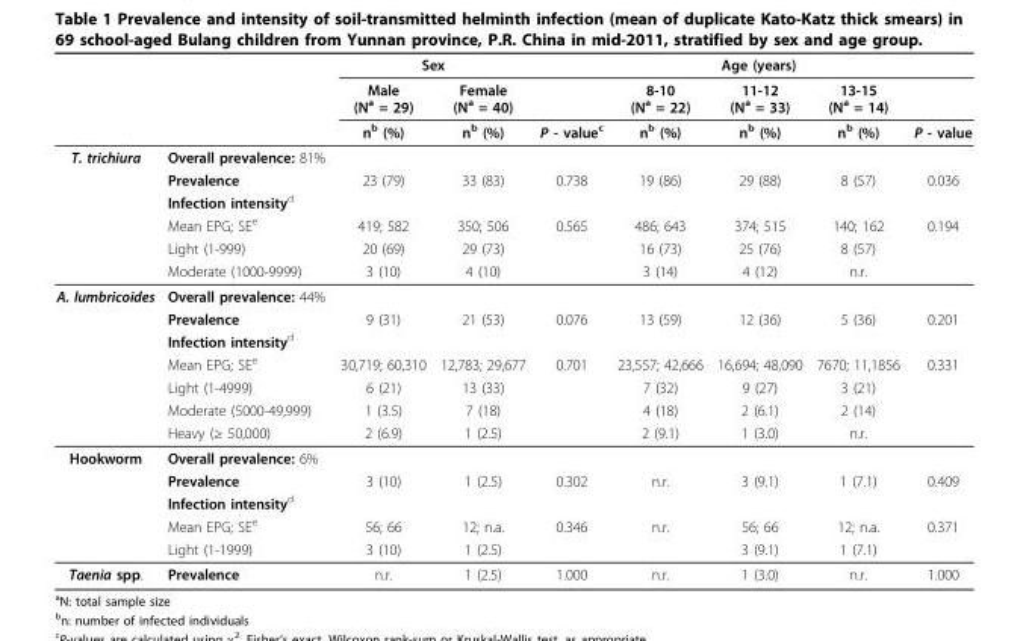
<table><thead><tr><td rowspan="3"></td><td rowspan="3"></td><td colspan="2">Sex</td><td rowspan="3">P - valuec</td><td colspan="3">Age (years)</td><td rowspan="3">P - value</td></tr><tr><td rowspan="2">Male (Na = 29) nb (%)</td><td rowspan="2">Female (Na = 40) nb (%)</td><td rowspan="2">8-10 (Na = 22) nb (%)</td><td rowspan="2">11-12 (Na = 33) nb (%)</td><td rowspan="2">13-15 (Na = 14) nb (%)</td></tr><tr></tr></thead><tbody><tr><td rowspan="6">T. trichiura</td><td>Overall prevalence: 81%</td><td></td><td></td><td></td><td></td><td></td><td></td><td></td></tr><tr><td>Prevalence</td><td>23 (79)</td><td>33 (83)</td><td>0.738</td><td>19 (86)</td><td>29 (88)</td><td>8 (57)</td><td>0.036</td></tr><tr><td>Infection intensityd</td><td></td><td></td><td></td><td></td><td></td><td></td><td></td></tr><tr><td>Mean EPG; SEe</td><td>419; 582</td><td>350; 506</td><td>0.565</td><td>486; 643</td><td>374; 515</td><td>140; 162</td><td>0.194</td></tr><tr><td>Light (1-999)</td><td>20 (69)</td><td>29 (73)</td><td></td><td>16 (73)</td><td>25 (76)</td><td>8 (57)</td><td></td></tr><tr><td>Moderate (1000-9999)</td><td>3 (10)</td><td>4 (10)</td><td></td><td>3 (14)</td><td>4 (12)</td><td>n.r.</td><td></td></tr><tr><td rowspan="7">A. lumbricoides</td><td>Overall prevalence: 44%</td><td></td><td></td><td></td><td></td><td></td><td></td><td></td></tr><tr><td>Prevalence</td><td>9 (31)</td><td>21 (53)</td><td>0.076</td><td>13 (59)</td><td>12 (36)</td><td>5 (36)</td><td>0.201</td></tr><tr><td>Infection intensityd</td><td></td><td></td><td></td><td></td><td></td><td></td><td></td></tr><tr><td>Mean EPG; SEe</td><td>30,719; 60,310</td><td>12,783; 29,677</td><td>0.701</td><td>23,557; 42,666</td><td>16,694; 48,090</td><td>7670; 11,1856</td><td>0.331</td></tr><tr><td>Light (1-4999)</td><td>6 (21)</td><td>13 (33)</td><td></td><td>7 (32)</td><td>9 (27)</td><td>3 (21)</td><td></td></tr><tr><td>Moderate (5000-49,999)</td><td>1 (3.5)</td><td>7 (18)</td><td></td><td>4 (18)</td><td>2 (6.1)</td><td>2 (14)</td><td></td></tr><tr><td>Heavy (≥ 50,000)</td><td>2 (6.9)</td><td>1 (2.5)</td><td></td><td>2 (9.1)</td><td>1 (3.0)</td><td>n.r.</td><td></td></tr><tr><td rowspan="5">Hookworm</td><td>Overall prevalence: 6%</td><td></td><td></td><td></td><td></td><td></td><td></td><td></td></tr><tr><td>Prevalence</td><td>3 (10)</td><td>1 (2.5)</td><td>0.302</td><td>n.r.</td><td>3 (9.1)</td><td>1 (7.1)</td><td>0.409</td></tr><tr><td>Infection intensityd</td><td></td><td></td><td></td><td></td><td></td><td></td><td></td></tr><tr><td>Mean EPG; SEe</td><td>56; 66</td><td>12; n.a.</td><td>0.346</td><td>n.r.</td><td>56; 66</td><td>12; n.a.</td><td>0.371</td></tr><tr><td>Light (1-1999)</td><td>3 (10)</td><td>1 (2.5)</td><td></td><td></td><td>3 (9.1)</td><td>1 (7.1)</td><td></td></tr><tr><td>Taenia spp.</td><td>Prevalence</td><td>n.r.</td><td>1 (2.5)</td><td>1.000</td><td>n.r.</td><td>1 (3.0)</td><td>n.r.</td><td>1.000</td></tr></tbody></table>